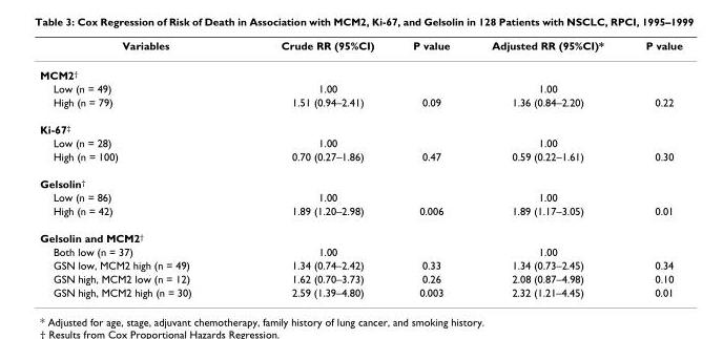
<table><thead><tr><td>Variables</td><td>Crude RR (95%CI)</td><td>P value</td><td>Adjusted RR (95%CI)*</td><td>P value</td></tr></thead><tbody><tr><td colspan="5">MCM2†</td></tr><tr><td>Low (n = 49)</td><td>1.00</td><td></td><td>1.00</td><td></td></tr><tr><td>High (n = 79)</td><td>1.51 (0.94–2.41)</td><td>0.09</td><td>1.36 (0.84–2.20)</td><td>0.22</td></tr><tr><td colspan="5">Ki-67‡</td></tr><tr><td>Low (n = 28)</td><td>1.00</td><td></td><td>1.00</td><td></td></tr><tr><td>High (n = 100)</td><td>0.70 (0.27–1.86)</td><td>0.47</td><td>0.59 (0.22–1.61)</td><td>0.30</td></tr><tr><td colspan="5">Gelsolin†</td></tr><tr><td>Low (n = 86)</td><td>1.00</td><td></td><td>1.00</td><td></td></tr><tr><td>High (n = 42)</td><td>1.89 (1.20–2.98)</td><td>0.006</td><td>1.89 (1.17–3.05)</td><td>0.01</td></tr><tr><td colspan="5">Gelsolin and MCM2†</td></tr><tr><td>Both low (n = 37)</td><td>1.00</td><td></td><td>1.00</td><td></td></tr><tr><td>GSN low, MCM2 high (n = 49)</td><td>1.34 (0.74–2.42)</td><td>0.33</td><td>1.34 (0.73–2.45)</td><td>0.34</td></tr><tr><td>GSN high, MCM2 low (n = 12)</td><td>1.62 (0.70–3.73)</td><td>0.26</td><td>2.08 (0.87–4.98)</td><td>0.10</td></tr><tr><td>GSN high, MCM2 high (n = 30)</td><td>2.59 (1.39–4.80)</td><td>0.003</td><td>2.32 (1.21–4.45)</td><td>0.01</td></tr></tbody></table>